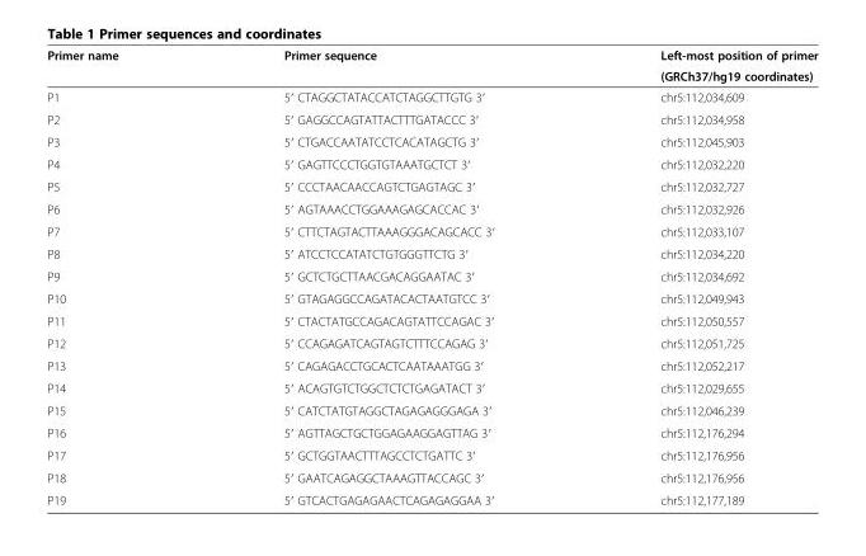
<table><thead><tr><td rowspan="2">Primer name</td><td rowspan="2">Primer sequence</td><td rowspan="2">Left-most position of primer (GRCh37/hg19 coordinates)</td></tr><tr></tr></thead><tbody><tr><td>P1</td><td>5′ CTAGGCTATACCATCTAGGCTTGTG 3′</td><td>chr5:112,034,609</td></tr><tr><td>P2</td><td>5′ GAGGCCAGTATTACTTTGATACCC 3′</td><td>chr5:112,034,958</td></tr><tr><td>P3</td><td>5′ CTGACCAATATCCTCACATAGCTG 3′</td><td>chr5:112,045,903</td></tr><tr><td>P4</td><td>5′ GAGTTCCCTGGTGTAAATGCTCT 3′</td><td>chr5:112,032,220</td></tr><tr><td>P5</td><td>5′ CCCTAACAACCAGTCTGAGTAGC 3′</td><td>chr5:112,032,727</td></tr><tr><td>P6</td><td>5′ AGTAAACCTGGAAAGAGCACCAC 3′</td><td>chr5:112,032,926</td></tr><tr><td>P7</td><td>5′ CTTCTAGTACTTAAAGGGACAGCACC 3′</td><td>chr5:112,033,107</td></tr><tr><td>P8</td><td>5′ ATCCTCCATATCTGTGGGTTCTG 3′</td><td>chr5:112,034,220</td></tr><tr><td>P9</td><td>5′ GCTCTGCTTAACGACAGGAATAC 3′</td><td>chr5:112,034,692</td></tr><tr><td>P10</td><td>5′ GTAGAGGCCAGATACACTAATGTCC 3′</td><td>chr5:112,049,943</td></tr><tr><td>P11</td><td>5′ CTACTATGCCAGACAGTATTCCAGAC 3′</td><td>chr5:112,050,557</td></tr><tr><td>P12</td><td>5′ CCAGAGATCAGTAGTCTTTCCAGAG 3′</td><td>chr5:112,051,725</td></tr><tr><td>P13</td><td>5′ CAGAGACCTGCACTCAATAAATGG 3′</td><td>chr5:112,052,217</td></tr><tr><td>P14</td><td>5′ ACAGTGTCTGGCTCTCTGAGATACT 3′</td><td>chr5:112,029,655</td></tr><tr><td>P15</td><td>5′ CATCTATGTAGGCTAGAGAGGGAGA 3′</td><td>chr5:112,046,239</td></tr><tr><td>P16</td><td>5′ AGTTAGCTGCTGGAGAAGGAGTTAG 3′</td><td>chr5:112,176,294</td></tr><tr><td>P17</td><td>5′ GCTGGTAACTTTAGCCTCTGATTC 3′</td><td>chr5:112,176,956</td></tr><tr><td>P18</td><td>5′ GAATCAGAGGCTAAAGTTACCAGC 3′</td><td>chr5:112,176,956</td></tr><tr><td>P19</td><td>5′ GTCACTGAGAGAACTCAGAGAGGAA 3′</td><td>chr5:112,177,189</td></tr></tbody></table>